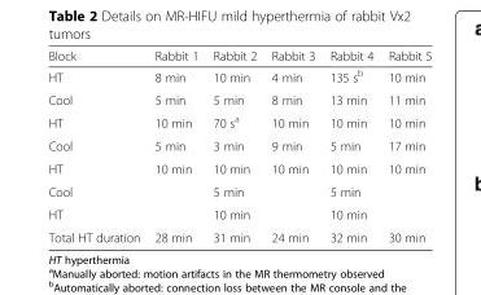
<table><thead><tr><td>Block</td><td>Rabbit 1</td><td>Rabbit 2</td><td>Rabbit 3</td><td>Rabbit 4</td><td>Rabbit 5</td></tr></thead><tbody><tr><td>HT</td><td>8 min</td><td>10 min</td><td>4 min</td><td>135 s<sup>b</sup></td><td>10 min</td></tr><tr><td>Cool</td><td>5 min</td><td>5 min</td><td>8 min</td><td>13 min</td><td>11 min</td></tr><tr><td>HT</td><td>10 min</td><td>70 s<sup>a</sup></td><td>10 min</td><td>10 min</td><td>10 min</td></tr><tr><td>Cool</td><td>5 min</td><td>3 min</td><td>9 min</td><td>5 min</td><td>17 min</td></tr><tr><td>HT</td><td>10 min</td><td>10 min</td><td>10 min</td><td>10 min</td><td>10 min</td></tr><tr><td>Cool</td><td></td><td>5 min</td><td></td><td>5 min</td><td></td></tr><tr><td>HT</td><td></td><td>10 min</td><td></td><td>10 min</td><td></td></tr><tr><td>Total HT duration</td><td>28 min</td><td>31 min</td><td>24 min</td><td>32 min</td><td>30 min</td></tr></tbody></table>